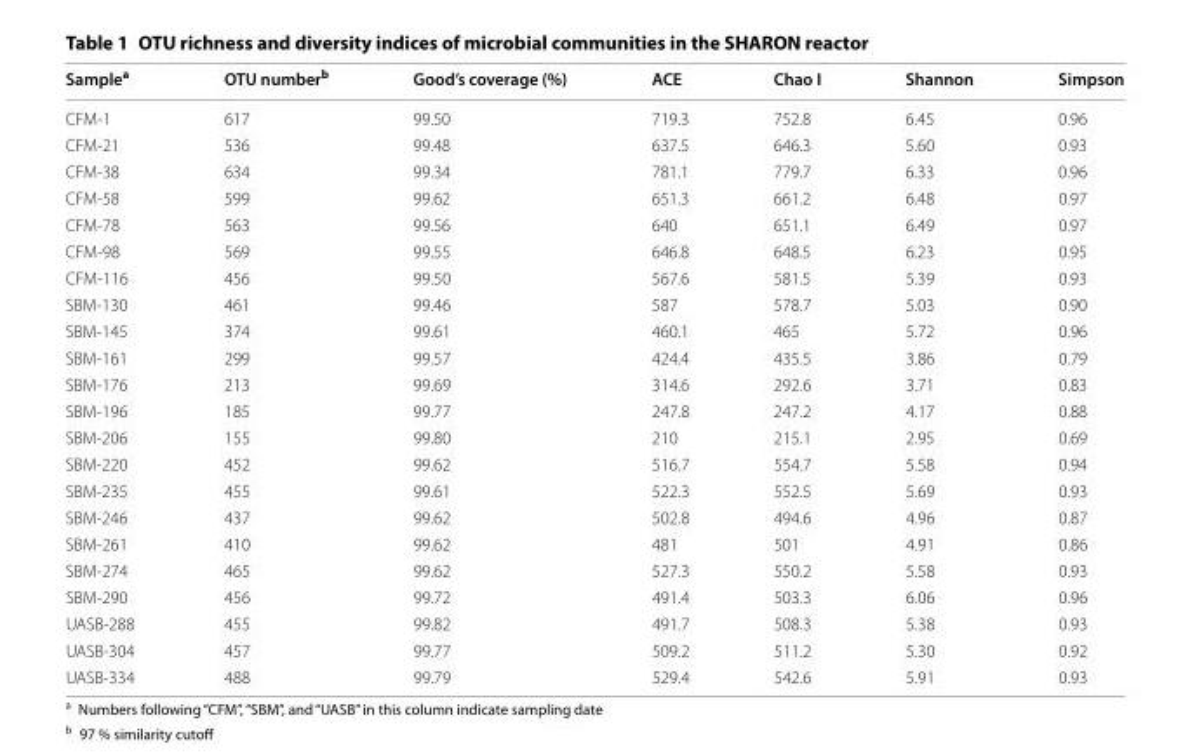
<table><thead><tr><td>Sample<sup>a</sup></td><td>OTU number<sup>b</sup></td><td>Good’s coverage (%)</td><td>ACE</td><td>Chao I</td><td>Shannon</td><td>Simpson</td></tr></thead><tbody><tr><td>CFM‑1</td><td>617</td><td>99.50</td><td>719.3</td><td>752.8</td><td>6.45</td><td>0.96</td></tr><tr><td>CFM‑21</td><td>536</td><td>99.48</td><td>637.5</td><td>646.3</td><td>5.60</td><td>0.93</td></tr><tr><td>CFM‑38</td><td>634</td><td>99.34</td><td>781.1</td><td>779.7</td><td>6.33</td><td>0.96</td></tr><tr><td>CFM‑58</td><td>599</td><td>99.62</td><td>651.3</td><td>661.2</td><td>6.48</td><td>0.97</td></tr><tr><td>CFM‑78</td><td>563</td><td>99.56</td><td>640</td><td>651.1</td><td>6.49</td><td>0.97</td></tr><tr><td>CFM‑98</td><td>569</td><td>99.55</td><td>646.8</td><td>648.5</td><td>6.23</td><td>0.95</td></tr><tr><td>CFM‑116</td><td>456</td><td>99.50</td><td>567.6</td><td>581.5</td><td>5.39</td><td>0.93</td></tr><tr><td>SBM‑130</td><td>461</td><td>99.46</td><td>587</td><td>578.7</td><td>5.03</td><td>0.90</td></tr><tr><td>SBM‑145</td><td>374</td><td>99.61</td><td>460.1</td><td>465</td><td>5.72</td><td>0.96</td></tr><tr><td>SBM‑161</td><td>299</td><td>99.57</td><td>424.4</td><td>435.5</td><td>3.86</td><td>0.79</td></tr><tr><td>SBM‑176</td><td>213</td><td>99.69</td><td>314.6</td><td>292.6</td><td>3.71</td><td>0.83</td></tr><tr><td>SBM‑196</td><td>185</td><td>99.77</td><td>247.8</td><td>247.2</td><td>4.17</td><td>0.88</td></tr><tr><td>SBM‑206</td><td>155</td><td>99.80</td><td>210</td><td>215.1</td><td>2.95</td><td>0.69</td></tr><tr><td>SBM‑220</td><td>452</td><td>99.62</td><td>516.7</td><td>554.7</td><td>5.58</td><td>0.94</td></tr><tr><td>SBM‑235</td><td>455</td><td>99.61</td><td>522.3</td><td>552.5</td><td>5.69</td><td>0.93</td></tr><tr><td>SBM‑246</td><td>437</td><td>99.62</td><td>502.8</td><td>494.6</td><td>4.96</td><td>0.87</td></tr><tr><td>SBM‑261</td><td>410</td><td>99.62</td><td>481</td><td>501</td><td>4.91</td><td>0.86</td></tr><tr><td>SBM‑274</td><td>465</td><td>99.62</td><td>527.3</td><td>550.2</td><td>5.58</td><td>0.93</td></tr><tr><td>SBM‑290</td><td>456</td><td>99.72</td><td>491.4</td><td>503.3</td><td>6.06</td><td>0.96</td></tr><tr><td>UASB‑288</td><td>455</td><td>99.82</td><td>491.7</td><td>508.3</td><td>5.38</td><td>0.93</td></tr><tr><td>UASB‑304</td><td>457</td><td>99.77</td><td>509.2</td><td>511.2</td><td>5.30</td><td>0.92</td></tr><tr><td>UASB‑334</td><td>488</td><td>99.79</td><td>529.4</td><td>542.6</td><td>5.91</td><td>0.93</td></tr></tbody></table>